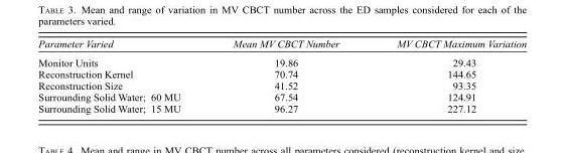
<table><thead><tr><td>Parameter Varied</td><td>Mean MV CBCT Number</td><td>MV CBCT Maximum Variation</td></tr></thead><tbody><tr><td>Monitor Units</td><td>19.86</td><td>29.43</td></tr><tr><td>Reconstruction Kernel</td><td>70.74</td><td>144.65</td></tr><tr><td>Reconstruction Size</td><td>41.52</td><td>93.35</td></tr><tr><td>Surrounding Solid Water; 60 MU</td><td>67.54</td><td>124.91</td></tr><tr><td>Surrounding Solid Water; 15 MU</td><td>96.27</td><td>227.12</td></tr></tbody></table>